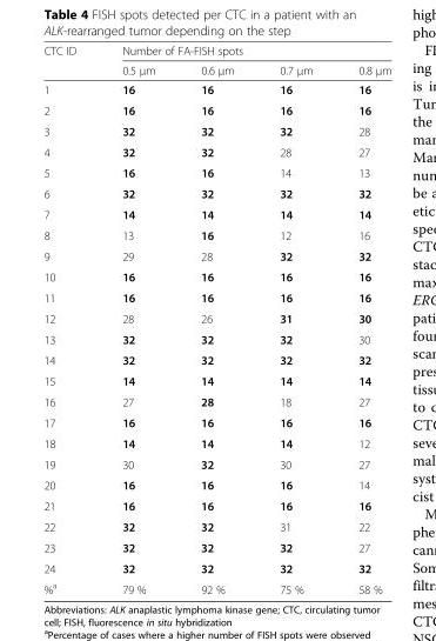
<table><thead><tr><td rowspan="2">CTC ID</td><td colspan="4">Number of FA-FISH spots</td></tr><tr><td>0.5 μm</td><td>0.6 μm</td><td>0.7 μm</td><td>0.8 μm</td></tr></thead><tbody><tr><td>1</td><td>16</td><td>16</td><td>16</td><td>16</td></tr><tr><td>2</td><td>16</td><td>16</td><td>16</td><td>16</td></tr><tr><td>3</td><td>32</td><td>32</td><td>32</td><td>28</td></tr><tr><td>4</td><td>32</td><td>32</td><td>28</td><td>27</td></tr><tr><td>5</td><td>16</td><td>16</td><td>14</td><td>13</td></tr><tr><td>6</td><td>32</td><td>32</td><td>32</td><td>32</td></tr><tr><td>7</td><td>14</td><td>14</td><td>14</td><td>14</td></tr><tr><td>8</td><td>13</td><td>16</td><td>12</td><td>16</td></tr><tr><td>9</td><td>29</td><td>28</td><td>32</td><td>32</td></tr><tr><td>10</td><td>16</td><td>16</td><td>16</td><td>16</td></tr><tr><td>11</td><td>16</td><td>16</td><td>16</td><td>16</td></tr><tr><td>12</td><td>28</td><td>26</td><td>31</td><td>30</td></tr><tr><td>13</td><td>32</td><td>32</td><td>32</td><td>30</td></tr><tr><td>14</td><td>32</td><td>32</td><td>32</td><td>32</td></tr><tr><td>15</td><td>14</td><td>14</td><td>14</td><td>14</td></tr><tr><td>16</td><td>27</td><td>28</td><td>18</td><td>27</td></tr><tr><td>17</td><td>16</td><td>16</td><td>16</td><td>16</td></tr><tr><td>18</td><td>14</td><td>14</td><td>14</td><td>12</td></tr><tr><td>19</td><td>30</td><td>32</td><td>30</td><td>27</td></tr><tr><td>20</td><td>16</td><td>16</td><td>16</td><td>14</td></tr><tr><td>21</td><td>16</td><td>16</td><td>16</td><td>16</td></tr><tr><td>22</td><td>32</td><td>32</td><td>31</td><td>22</td></tr><tr><td>23</td><td>32</td><td>32</td><td>32</td><td>27</td></tr><tr><td>24</td><td>32</td><td>32</td><td>32</td><td>32</td></tr><tr><td>%<sup>a</sup></td><td>79 %</td><td>92 %</td><td>75 %</td><td>58 %</td></tr></tbody></table>